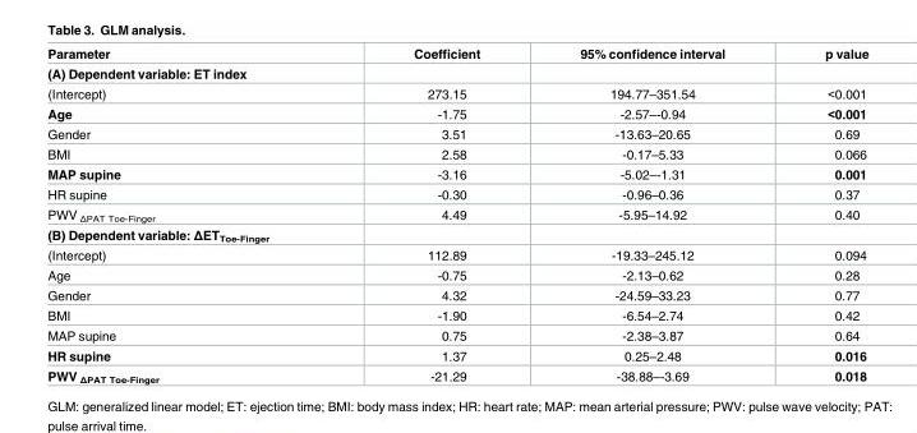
<table><thead><tr><td>Parameter</td><td>Coefficient</td><td>95% confidence interval</td><td>p value</td></tr></thead><tbody><tr><td colspan="4">(A) Dependent variable: ET index</td></tr><tr><td>(Intercept)</td><td>273.15</td><td>194.77–351.54</td><td>&lt;0.001</td></tr><tr><td>Age</td><td>-1.75</td><td>-2.57–-0.94</td><td>&lt;0.001</td></tr><tr><td>Gender</td><td>3.51</td><td>-13.63–20.65</td><td>0.69</td></tr><tr><td>BMI</td><td>2.58</td><td>-0.17–5.33</td><td>0.066</td></tr><tr><td>MAP supine</td><td>-3.16</td><td>-5.02–-1.31</td><td>0.001</td></tr><tr><td>HR supine</td><td>-0.30</td><td>-0.96–0.36</td><td>0.37</td></tr><tr><td>PWV <sub>ΔPAT Toe-Finger</sub></td><td>4.49</td><td>-5.95–14.92</td><td>0.40</td></tr><tr><td colspan="4">(B) Dependent variable: ΔET<sub>Toe-Finger</sub></td></tr><tr><td>(Intercept)</td><td>112.89</td><td>-19.33–245.12</td><td>0.094</td></tr><tr><td>Age</td><td>-0.75</td><td>-2.13–0.62</td><td>0.28</td></tr><tr><td>Gender</td><td>4.32</td><td>-24.59–33.23</td><td>0.77</td></tr><tr><td>BMI</td><td>-1.90</td><td>-6.54–2.74</td><td>0.42</td></tr><tr><td>MAP supine</td><td>0.75</td><td>-2.38–3.87</td><td>0.64</td></tr><tr><td>HR supine</td><td>1.37</td><td>0.25–2.48</td><td>0.016</td></tr><tr><td>PWV <sub>ΔPAT Toe-Finger</sub></td><td>-21.29</td><td>-38.88–-3.69</td><td>0.018</td></tr></tbody></table>